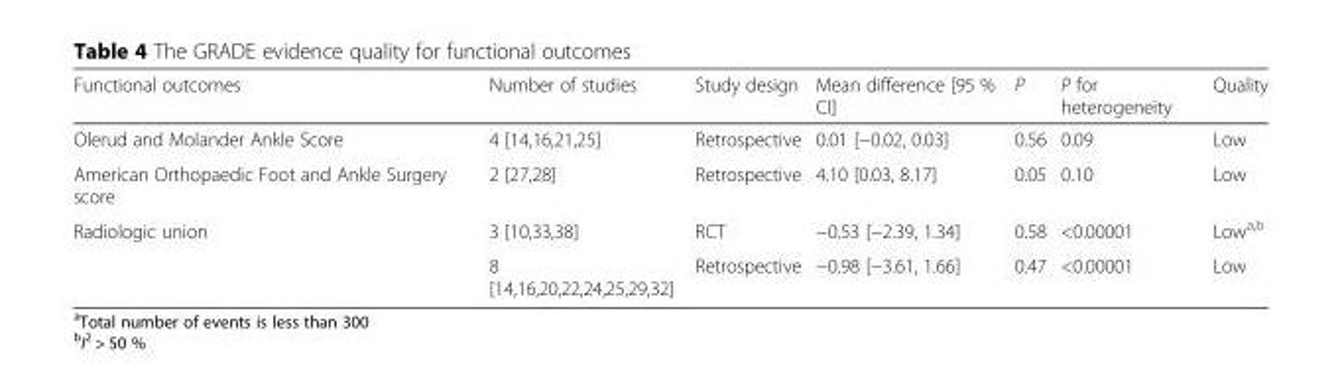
<table><thead><tr><td>Functional outcomes</td><td>Number of studies</td><td>Study design</td><td>Mean difference [95 % CI]</td><td>P</td><td>P for heterogeneity</td><td>Quality</td></tr></thead><tbody><tr><td>Olerud and Molander Ankle Score</td><td>4 [14,16,21,25]</td><td>Retrospective</td><td>0.01 [−0.02, 0.03]</td><td>0.56</td><td>0.09</td><td>Low</td></tr><tr><td>American Orthopaedic Foot and Ankle Surgery score</td><td>2 [27,28]</td><td>Retrospective</td><td>4.10 [0.03, 8.17]</td><td>0.05</td><td>0.10</td><td>Low</td></tr><tr><td rowspan="2">Radiologic union</td><td>3 [10,33,38]</td><td>RCT</td><td>−0.53 [−2.39, 1.34]</td><td>0.58</td><td>&lt;0.00001</td><td>Low<sup>a,b</sup></td></tr><tr><td>8 [14,16,20,22,24,25,29,32]</td><td>Retrospective</td><td>−0.98 [−3.61, 1.66]</td><td>0.47</td><td>&lt;0.00001</td><td>Low</td></tr></tbody></table>